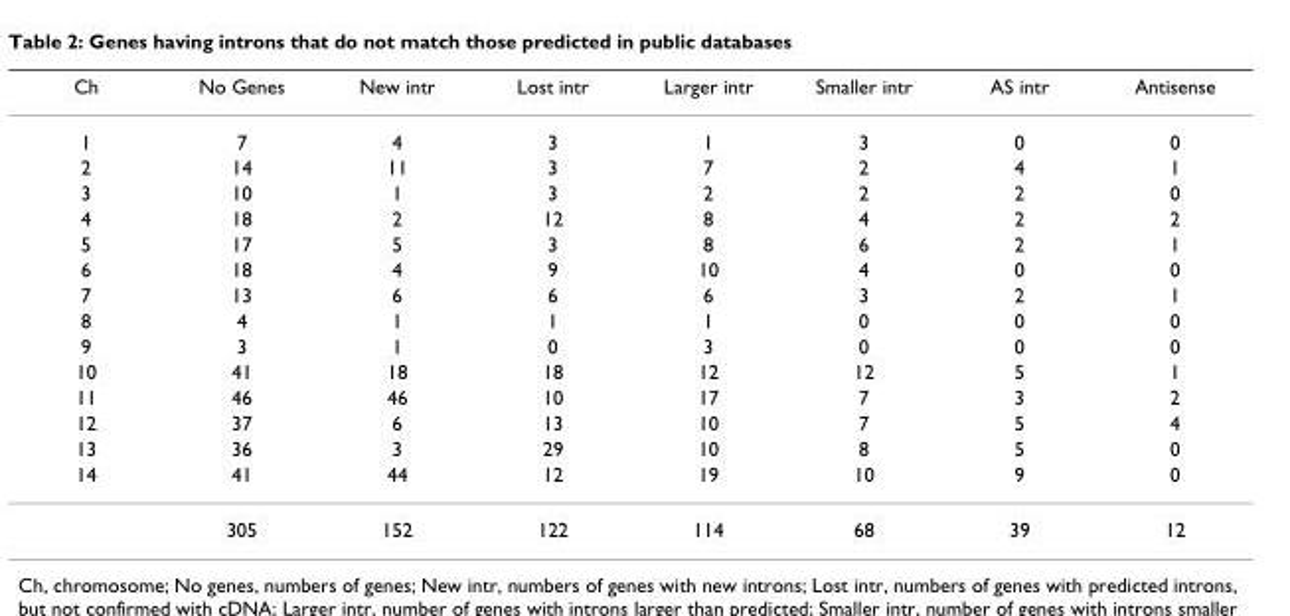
<table><thead><tr><td>Ch</td><td>No Genes</td><td>New intr</td><td>Lost intr</td><td>Larger intr</td><td>Smaller intr</td><td>AS intr</td><td>Antisense</td></tr></thead><tbody><tr><td>1</td><td>7</td><td>4</td><td>3</td><td>1</td><td>3</td><td>0</td><td>0</td></tr><tr><td>2</td><td>14</td><td>11</td><td>3</td><td>7</td><td>2</td><td>4</td><td>1</td></tr><tr><td>3</td><td>10</td><td>1</td><td>3</td><td>2</td><td>2</td><td>2</td><td>0</td></tr><tr><td>4</td><td>18</td><td>2</td><td>12</td><td>8</td><td>4</td><td>2</td><td>2</td></tr><tr><td>5</td><td>17</td><td>5</td><td>3</td><td>8</td><td>6</td><td>2</td><td>1</td></tr><tr><td>6</td><td>18</td><td>4</td><td>9</td><td>10</td><td>4</td><td>0</td><td>0</td></tr><tr><td>7</td><td>13</td><td>6</td><td>6</td><td>6</td><td>3</td><td>2</td><td>1</td></tr><tr><td>8</td><td>4</td><td>1</td><td>1</td><td>1</td><td>0</td><td>0</td><td>0</td></tr><tr><td>9</td><td>3</td><td>1</td><td>0</td><td>3</td><td>0</td><td>0</td><td>0</td></tr><tr><td>10</td><td>41</td><td>18</td><td>18</td><td>12</td><td>12</td><td>5</td><td>1</td></tr><tr><td>11</td><td>46</td><td>46</td><td>10</td><td>17</td><td>7</td><td>3</td><td>2</td></tr><tr><td>12</td><td>37</td><td>6</td><td>13</td><td>10</td><td>7</td><td>5</td><td>4</td></tr><tr><td>13</td><td>36</td><td>3</td><td>29</td><td>10</td><td>8</td><td>5</td><td>0</td></tr><tr><td rowspan="2">14</td><td>41</td><td>44</td><td>12</td><td>19</td><td>10</td><td>9</td><td>0</td></tr><tr><td>305</td><td>152</td><td>122</td><td>114</td><td>68</td><td>39</td><td>12</td></tr></tbody></table>